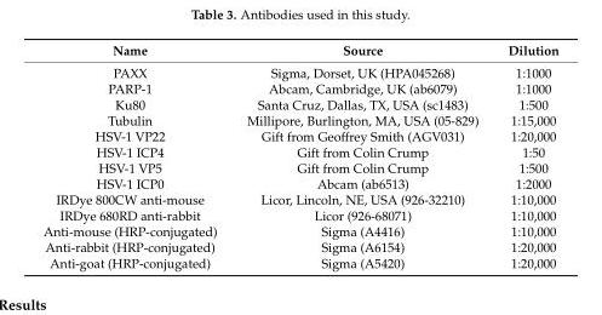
<table><thead><tr><td>Name</td><td>Source</td><td>Dilution</td></tr></thead><tbody><tr><td>PAXX</td><td>Sigma, Dorset, UK (HPA045268)</td><td>1:1000</td></tr><tr><td>PARP-1</td><td>Abcam, Cambridge, UK (ab6079)</td><td>1:1000</td></tr><tr><td>Ku80</td><td>Santa Cruz, Dallas, TX, USA (sc1483)</td><td>1:500</td></tr><tr><td>Tubulin</td><td>Millipore, Burlington, MA, USA (05-829)</td><td>1:15,000</td></tr><tr><td>HSV-1 VP22</td><td>Gift from Geoffrey Smith (AGV031)</td><td>1:20,000</td></tr><tr><td>HSV-1 ICP4</td><td>Gift from Colin Crump</td><td>1:50</td></tr><tr><td>HSV-1 VP5</td><td>Gift from Colin Crump</td><td>1:500</td></tr><tr><td>HSV-1 ICP0</td><td>Abcam (ab6513)</td><td>1:2000</td></tr><tr><td>IRDye 800CW anti-mouse</td><td>Licor, Lincoln, NE, USA (926-32210)</td><td>1:10,000</td></tr><tr><td>IRDye 680RD anti-rabbit</td><td>Licor (926-68071)</td><td>1:10,000</td></tr><tr><td>Anti-mouse (HRP-conjugated)</td><td>Sigma (A4416)</td><td>1:10,000</td></tr><tr><td>Anti-rabbit (HRP-conjugated)</td><td>Sigma (A6154)</td><td>1:20,000</td></tr><tr><td>Anti-goat (HRP-conjugated)</td><td>Sigma (A5420)</td><td>1:20,000</td></tr></tbody></table>